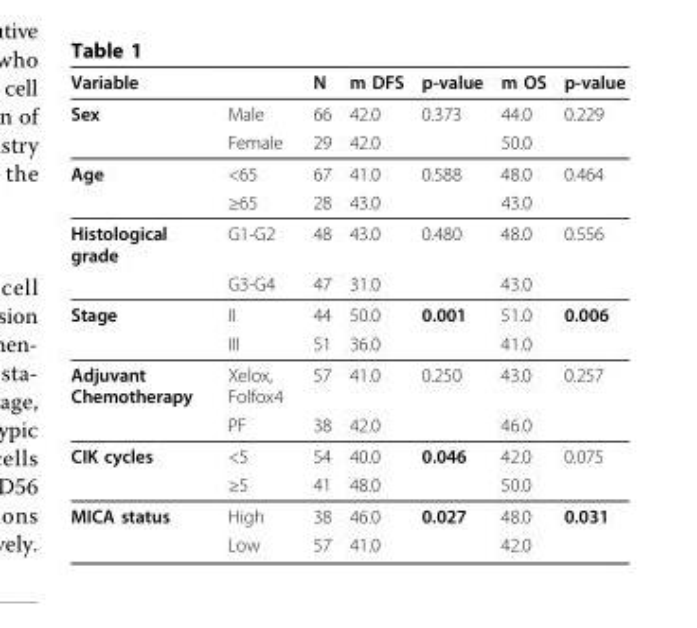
<table><thead><tr><td>Variable</td><td></td><td>N</td><td>m DFS</td><td>p-value</td><td>m OS</td><td>p-value</td></tr></thead><tbody><tr><td rowspan="2">Sex</td><td>Male</td><td>66</td><td>42.0</td><td>0.373</td><td>44.0</td><td>0.229</td></tr><tr><td>Female</td><td>29</td><td>42.0</td><td></td><td>50.0</td><td></td></tr><tr><td rowspan="2">Age</td><td>&lt;65</td><td>67</td><td>41.0</td><td>0.588</td><td>48.0</td><td>0.464</td></tr><tr><td>≥65</td><td>28</td><td>43.0</td><td></td><td>43.0</td><td></td></tr><tr><td rowspan="2">Histological grade</td><td>G1-G2</td><td>48</td><td>43.0</td><td>0.480</td><td>48.0</td><td>0.556</td></tr><tr><td>G3-G4</td><td>47</td><td>31.0</td><td></td><td>43.0</td><td></td></tr><tr><td rowspan="2">Stage</td><td>II</td><td>44</td><td>50.0</td><td>0.001</td><td>51.0</td><td>0.006</td></tr><tr><td>III</td><td>51</td><td>36.0</td><td></td><td>41.0</td><td></td></tr><tr><td rowspan="2">Adjuvant Chemotherapy</td><td>Xelox, Folfox4</td><td>57</td><td>41.0</td><td>0.250</td><td>43.0</td><td>0.257</td></tr><tr><td>PF</td><td>38</td><td>42.0</td><td></td><td>46.0</td><td></td></tr><tr><td rowspan="2">CIK cycles</td><td>&lt;5</td><td>54</td><td>40.0</td><td>0.046</td><td>42.0</td><td>0.075</td></tr><tr><td>≥5</td><td>41</td><td>48.0</td><td></td><td>50.0</td><td></td></tr><tr><td rowspan="2">MICA status</td><td>High</td><td>38</td><td>46.0</td><td>0.027</td><td>48.0</td><td>0.031</td></tr><tr><td>Low</td><td>57</td><td>41.0</td><td></td><td>42.0</td><td></td></tr></tbody></table>